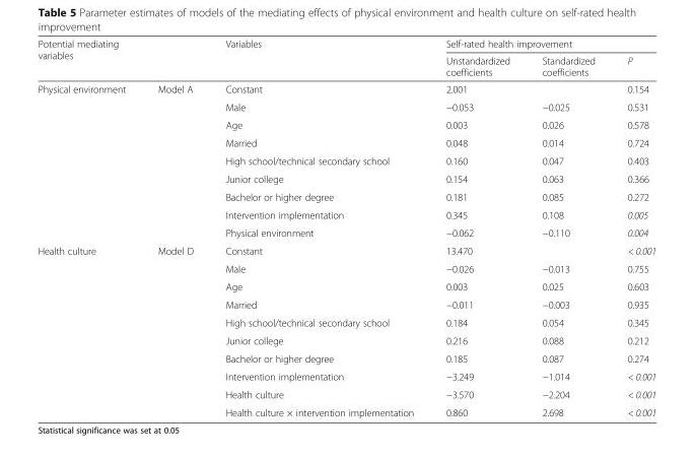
<table><thead><tr><td rowspan="2">Potential mediating variables</td><td rowspan="2"></td><td rowspan="2">Variables</td><td colspan="3">Self-rated health improvement</td></tr><tr><td>Unstandardized coefficients</td><td>Standardized coefficients</td><td>P</td></tr></thead><tbody><tr><td rowspan="9">Physical environment</td><td rowspan="9">Model A</td><td>Constant</td><td>2.001</td><td></td><td>0.154</td></tr><tr><td>Male</td><td>−0.053</td><td>−0.025</td><td>0.531</td></tr><tr><td>Age</td><td>0.003</td><td>0.026</td><td>0.578</td></tr><tr><td>Married</td><td>0.048</td><td>0.014</td><td>0.724</td></tr><tr><td>High school/technical secondary school</td><td>0.160</td><td>0.047</td><td>0.403</td></tr><tr><td>Junior college</td><td>0.154</td><td>0.063</td><td>0.366</td></tr><tr><td>Bachelor or higher degree</td><td>0.181</td><td>0.085</td><td>0.272</td></tr><tr><td>Intervention implementation</td><td>0.345</td><td>0.108</td><td>0.005</td></tr><tr><td>Physical environment</td><td>−0.062</td><td>−0.110</td><td>0.004</td></tr><tr><td rowspan="10">Health culture</td><td rowspan="10">Model D</td><td>Constant</td><td>13.470</td><td></td><td>&lt; 0.001</td></tr><tr><td>Male</td><td>−0.026</td><td>−0.013</td><td>0.755</td></tr><tr><td>Age</td><td>0.003</td><td>0.025</td><td>0.603</td></tr><tr><td>Married</td><td>−0.011</td><td>−0.003</td><td>0.935</td></tr><tr><td>High school/technical secondary school</td><td>0.184</td><td>0.054</td><td>0.345</td></tr><tr><td>Junior college</td><td>0.216</td><td>0.088</td><td>0.212</td></tr><tr><td>Bachelor or higher degree</td><td>0.185</td><td>0.087</td><td>0.274</td></tr><tr><td>Intervention implementation</td><td>−3.249</td><td>−1.014</td><td>&lt; 0.001</td></tr><tr><td>Health culture</td><td>−3.570</td><td>−2.204</td><td>&lt; 0.001</td></tr><tr><td>Health culture × intervention implementation</td><td>0.860</td><td>2.698</td><td>&lt; 0.001</td></tr></tbody></table>